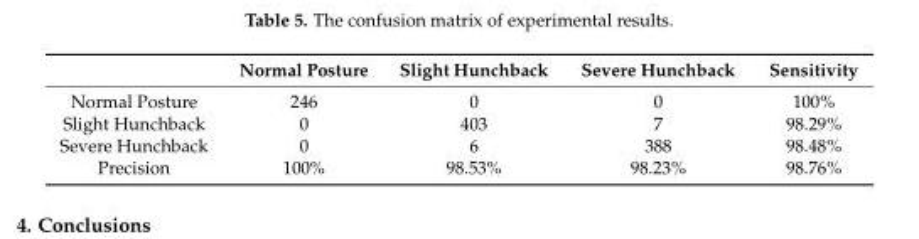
<table><thead><tr><td></td><td>Normal Posture</td><td>Slight Hunchback</td><td>Severe Hunchback</td><td>Sensitivity</td></tr></thead><tbody><tr><td>Normal Posture</td><td>246</td><td>0</td><td>0</td><td>100%</td></tr><tr><td>Slight Hunchback</td><td>0</td><td>403</td><td>7</td><td>98.29%</td></tr><tr><td>Severe Hunchback</td><td>0</td><td>6</td><td>388</td><td>98.48%</td></tr><tr><td>Precision</td><td>100%</td><td>98.53%</td><td>98.23%</td><td>98.76%</td></tr></tbody></table>